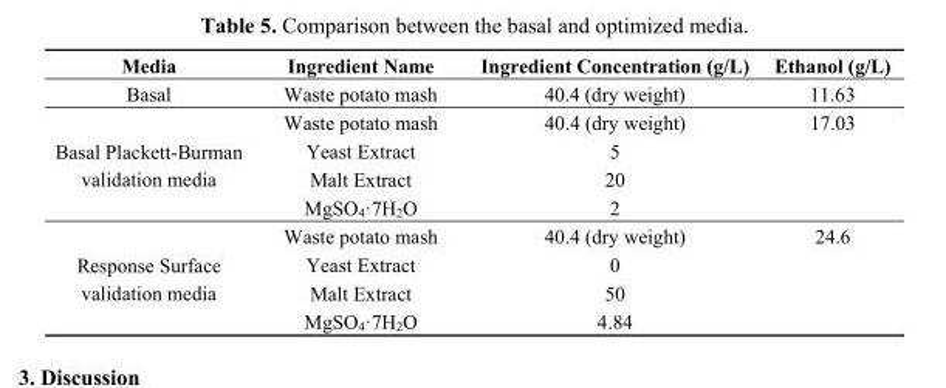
<table><thead><tr><td>Media</td><td>Ingredient Name</td><td>Ingredient Concentration (g/L)</td><td>Ethanol (g/L)</td></tr></thead><tbody><tr><td>Basal</td><td>Waste potato mash</td><td>40.4 (dry weight)</td><td>11.63</td></tr><tr><td rowspan="4">Basal Plackett-Burman validation media</td><td>Waste potato mash</td><td>40.4 (dry weight)</td><td>17.03</td></tr><tr><td>Yeast Extract</td><td>5</td><td></td></tr><tr><td>Malt Extract</td><td>20</td><td></td></tr><tr><td>MgSO<sub>4</sub>·7H<sub>2</sub>O</td><td>2</td><td></td></tr><tr><td rowspan="4">Response Surface validation media</td><td>Waste potato mash</td><td>40.4 (dry weight)</td><td>24.6</td></tr><tr><td>Yeast Extract</td><td>0</td><td></td></tr><tr><td>Malt Extract</td><td>50</td><td></td></tr><tr><td>MgSO<sub>4</sub>·7H<sub>2</sub>O</td><td>4.84</td><td></td></tr></tbody></table>